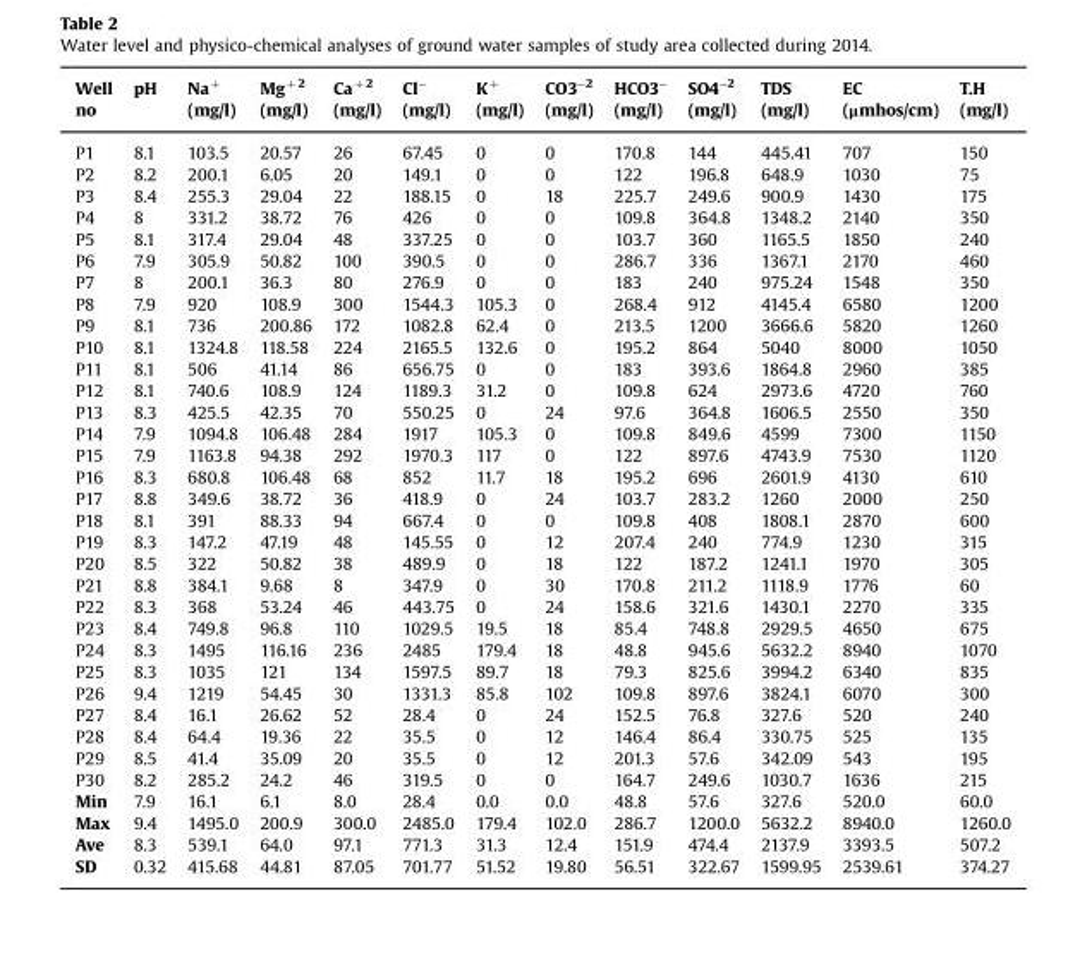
<table><thead><tr><td rowspan="2">Well no</td><td rowspan="2">pH</td><td rowspan="2">Na<sup>+</sup> (mg/l)</td><td rowspan="2">Mg<sup>+2</sup> (mg/l)</td><td rowspan="2">Ca<sup>+2</sup> (mg/l)</td><td rowspan="2">Cl<sup>−</sup> (mg/l)</td><td rowspan="2">K<sup>+</sup> (mg/l)</td><td rowspan="2">CO3<sup>−2</sup> (mg/l)</td><td rowspan="2">HCO3<sup>−</sup> (mg/l)</td><td rowspan="2">SO4<sup>−2</sup> (mg/l)</td><td rowspan="2">TDS (mg/l)</td><td rowspan="2">EC (μmhos/cm)</td><td rowspan="2">T.H (mg/l)</td></tr><tr></tr></thead><tbody><tr><td>P1</td><td>8.1</td><td>103.5</td><td>20.57</td><td>26</td><td>67.45</td><td>0</td><td>0</td><td>170.8</td><td>144</td><td>445.41</td><td>707</td><td>150</td></tr><tr><td>P2</td><td>8.2</td><td>200.1</td><td>6.05</td><td>20</td><td>149.1</td><td>0</td><td>0</td><td>122</td><td>196.8</td><td>648.9</td><td>1030</td><td>75</td></tr><tr><td>P3</td><td>8.4</td><td>255.3</td><td>29.04</td><td>22</td><td>188.15</td><td>0</td><td>18</td><td>225.7</td><td>249.6</td><td>900.9</td><td>1430</td><td>175</td></tr><tr><td>P4</td><td>8</td><td>331.2</td><td>38.72</td><td>76</td><td>426</td><td>0</td><td>0</td><td>109.8</td><td>364.8</td><td>1348.2</td><td>2140</td><td>350</td></tr><tr><td>P5</td><td>8.1</td><td>317.4</td><td>29.04</td><td>48</td><td>337.25</td><td>0</td><td>0</td><td>103.7</td><td>360</td><td>1165.5</td><td>1850</td><td>240</td></tr><tr><td>P6</td><td>7.9</td><td>305.9</td><td>50.82</td><td>100</td><td>390.5</td><td>0</td><td>0</td><td>286.7</td><td>336</td><td>1367.1</td><td>2170</td><td>460</td></tr><tr><td>P7</td><td>8</td><td>200.1</td><td>36.3</td><td>80</td><td>276.9</td><td>0</td><td>0</td><td>183</td><td>240</td><td>975.24</td><td>1548</td><td>350</td></tr><tr><td>P8</td><td>7.9</td><td>920</td><td>108.9</td><td>300</td><td>1544.3</td><td>105.3</td><td>0</td><td>268.4</td><td>912</td><td>4145.4</td><td>6580</td><td>1200</td></tr><tr><td>P9</td><td>8.1</td><td>736</td><td>200.86</td><td>172</td><td>1082.8</td><td>62.4</td><td>0</td><td>213.5</td><td>1200</td><td>3666.6</td><td>5820</td><td>1260</td></tr><tr><td>P10</td><td>8.1</td><td>1324.8</td><td>118.58</td><td>224</td><td>2165.5</td><td>132.6</td><td>0</td><td>195.2</td><td>864</td><td>5040</td><td>8000</td><td>1050</td></tr><tr><td>P11</td><td>8.1</td><td>506</td><td>41.14</td><td>86</td><td>656.75</td><td>0</td><td>0</td><td>183</td><td>393.6</td><td>1864.8</td><td>2960</td><td>385</td></tr><tr><td>P12</td><td>8.1</td><td>740.6</td><td>108.9</td><td>124</td><td>1189.3</td><td>31.2</td><td>0</td><td>109.8</td><td>624</td><td>2973.6</td><td>4720</td><td>760</td></tr><tr><td>P13</td><td>8.3</td><td>425.5</td><td>42.35</td><td>70</td><td>550.25</td><td>0</td><td>24</td><td>97.6</td><td>364.8</td><td>1606.5</td><td>2550</td><td>350</td></tr><tr><td>P14</td><td>7.9</td><td>1094.8</td><td>106.48</td><td>284</td><td>1917</td><td>105.3</td><td>0</td><td>109.8</td><td>849.6</td><td>4599</td><td>7300</td><td>1150</td></tr><tr><td>P15</td><td>7.9</td><td>1163.8</td><td>94.38</td><td>292</td><td>1970.3</td><td>117</td><td>0</td><td>122</td><td>897.6</td><td>4743.9</td><td>7530</td><td>1120</td></tr><tr><td>P16</td><td>8.3</td><td>680.8</td><td>106.48</td><td>68</td><td>852</td><td>11.7</td><td>18</td><td>195.2</td><td>696</td><td>2601.9</td><td>4130</td><td>610</td></tr><tr><td>P17</td><td>8.8</td><td>349.6</td><td>38.72</td><td>36</td><td>418.9</td><td>0</td><td>24</td><td>103.7</td><td>283.2</td><td>1260</td><td>2000</td><td>250</td></tr><tr><td>P18</td><td>8.1</td><td>391</td><td>88.33</td><td>94</td><td>667.4</td><td>0</td><td>0</td><td>109.8</td><td>408</td><td>1808.1</td><td>2870</td><td>600</td></tr><tr><td>P19</td><td>8.3</td><td>147.2</td><td>47.19</td><td>48</td><td>145.55</td><td>0</td><td>12</td><td>207.4</td><td>240</td><td>774.9</td><td>1230</td><td>315</td></tr><tr><td>P20</td><td>8.5</td><td>322</td><td>50.82</td><td>38</td><td>489.9</td><td>0</td><td>18</td><td>122</td><td>187.2</td><td>1241.1</td><td>1970</td><td>305</td></tr><tr><td>P21</td><td>8.8</td><td>384.1</td><td>9.68</td><td>8</td><td>347.9</td><td>0</td><td>30</td><td>170.8</td><td>211.2</td><td>1118.9</td><td>1776</td><td>60</td></tr><tr><td>P22</td><td>8.3</td><td>368</td><td>53.24</td><td>46</td><td>443.75</td><td>0</td><td>24</td><td>158.6</td><td>321.6</td><td>1430.1</td><td>2270</td><td>335</td></tr><tr><td>P23</td><td>8.4</td><td>749.8</td><td>96.8</td><td>110</td><td>1029.5</td><td>19.5</td><td>18</td><td>85.4</td><td>748.8</td><td>2929.5</td><td>4650</td><td>675</td></tr><tr><td>P24</td><td>8.3</td><td>1495</td><td>116.16</td><td>236</td><td>2485</td><td>179.4</td><td>18</td><td>48.8</td><td>945.6</td><td>5632.2</td><td>8940</td><td>1070</td></tr><tr><td>P25</td><td>8.3</td><td>1035</td><td>121</td><td>134</td><td>1597.5</td><td>89.7</td><td>18</td><td>79.3</td><td>825.6</td><td>3994.2</td><td>6340</td><td>835</td></tr><tr><td>P26</td><td>9.4</td><td>1219</td><td>54.45</td><td>30</td><td>1331.3</td><td>85.8</td><td>102</td><td>109.8</td><td>897.6</td><td>3824.1</td><td>6070</td><td>300</td></tr><tr><td>P27</td><td>8.4</td><td>16.1</td><td>26.62</td><td>52</td><td>28.4</td><td>0</td><td>24</td><td>152.5</td><td>76.8</td><td>327.6</td><td>520</td><td>240</td></tr><tr><td>P28</td><td>8.4</td><td>64.4</td><td>19.36</td><td>22</td><td>35.5</td><td>0</td><td>12</td><td>146.4</td><td>86.4</td><td>330.75</td><td>525</td><td>135</td></tr><tr><td>P29</td><td>8.5</td><td>41.4</td><td>35.09</td><td>20</td><td>35.5</td><td>0</td><td>12</td><td>201.3</td><td>57.6</td><td>342.09</td><td>543</td><td>195</td></tr><tr><td>P30</td><td>8.2</td><td>285.2</td><td>24.2</td><td>46</td><td>319.5</td><td>0</td><td>0</td><td>164.7</td><td>249.6</td><td>1030.7</td><td>1636</td><td>215</td></tr><tr><td>Min</td><td>7.9</td><td>16.1</td><td>6.1</td><td>8.0</td><td>28.4</td><td>0.0</td><td>0.0</td><td>48.8</td><td>57.6</td><td>327.6</td><td>520.0</td><td>60.0</td></tr><tr><td>Max</td><td>9.4</td><td>1495.0</td><td>200.9</td><td>300.0</td><td>2485.0</td><td>179.4</td><td>102.0</td><td>286.7</td><td>1200.0</td><td>5632.2</td><td>8940.0</td><td>1260.0</td></tr><tr><td>Ave</td><td>8.3</td><td>539.1</td><td>64.0</td><td>97.1</td><td>771.3</td><td>31.3</td><td>12.4</td><td>151.9</td><td>474.4</td><td>2137.9</td><td>3393.5</td><td>507.2</td></tr><tr><td>SD</td><td>0.32</td><td>415.68</td><td>44.81</td><td>87.05</td><td>701.77</td><td>51.52</td><td>19.80</td><td>56.51</td><td>322.67</td><td>1599.95</td><td>2539.61</td><td>374.27</td></tr></tbody></table>